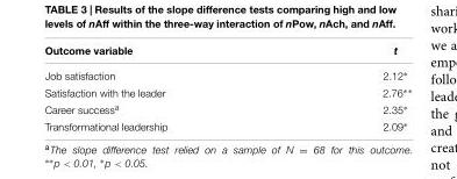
<table><thead><tr><td>Outcome variable</td><td>t</td></tr></thead><tbody><tr><td>Job satisfaction</td><td>2.12∗</td></tr><tr><td>Satisfaction with the leader</td><td>2.76∗∗</td></tr><tr><td>Career success<sup>a</sup></td><td>2.35∗</td></tr><tr><td>Transformational leadership</td><td>2.09∗</td></tr></tbody></table>